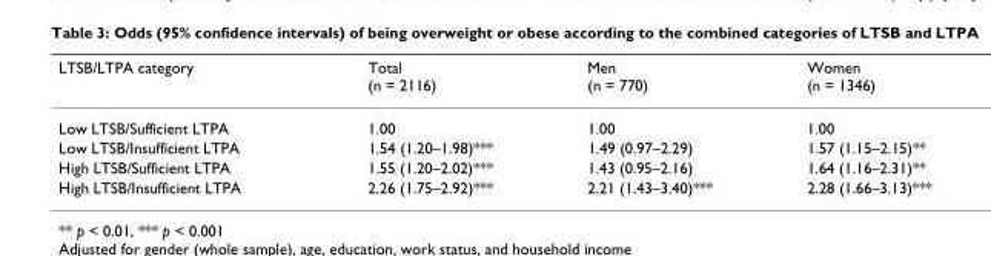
<table><thead><tr><td>LTSB/LTPA category</td><td>Total (n = 2116)</td><td>Men (n = 770)</td><td>Women (n = 1346)</td></tr></thead><tbody><tr><td>Low LTSB/Sufficient LTPA</td><td>1.00</td><td>1.00</td><td>1.00</td></tr><tr><td>Low LTSB/Insufficient LTPA</td><td>1.54 (1.20–1.98)***</td><td>1.49 (0.97–2.29)</td><td>1.57 (1.15–2.15)**</td></tr><tr><td>High LTSB/Sufficient LTPA</td><td>1.55 (1.20–2.02)***</td><td>1.43 (0.95–2.16)</td><td>1.64 (1.16–2.31)**</td></tr><tr><td>High LTSB/Insufficient LTPA</td><td>2.26 (1.75–2.92)***</td><td>2.21 (1.43–3.40)***</td><td>2.28 (1.66–3.13)***</td></tr></tbody></table>